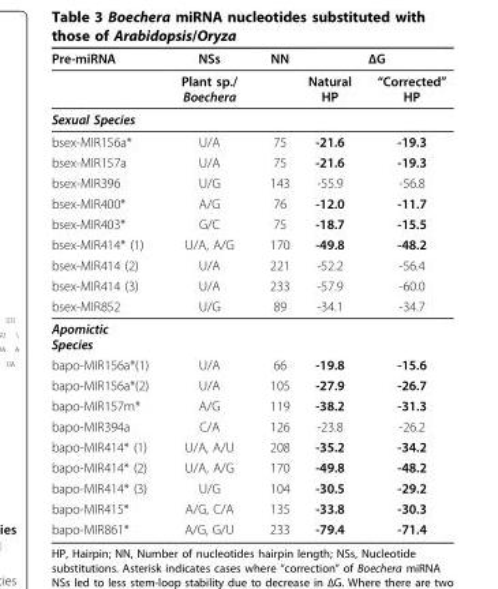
<table><thead><tr><td rowspan="2">Pre-miRNA</td><td rowspan="2">NSs Plant sp./ Boechera</td><td rowspan="2">NN</td><td colspan="2">ΔG</td></tr><tr><td>Natural HP</td><td>“Corrected” HP</td></tr></thead><tbody><tr><td colspan="5">Sexual Species</td></tr><tr><td>bsex-MIR156a*</td><td>U/A</td><td>75</td><td>-21.6</td><td>-19.3</td></tr><tr><td>bsex-MIR157a</td><td>U/A</td><td>75</td><td>-21.6</td><td>-19.3</td></tr><tr><td>bsex-MIR396</td><td>U/G</td><td>143</td><td>-55.9</td><td>-56.8</td></tr><tr><td>bsex-MIR400*</td><td>A/G</td><td>76</td><td>-12.0</td><td>-11.7</td></tr><tr><td>bsex-MIR403*</td><td>G/C</td><td>75</td><td>-18.7</td><td>-15.5</td></tr><tr><td>bsex-MIR414* (1)</td><td>U/A, A/G</td><td>170</td><td>-49.8</td><td>-48.2</td></tr><tr><td>bsex-MIR414 (2)</td><td>U/A</td><td>221</td><td>-52.2</td><td>-56.4</td></tr><tr><td>bsex-MIR414 (3)</td><td>U/A</td><td>233</td><td>-57.9</td><td>-60.0</td></tr><tr><td>bsex-MIR852</td><td>U/G</td><td>89</td><td>-34.1</td><td>-34.7</td></tr><tr><td colspan="5">Apomictic Species</td></tr><tr><td>bapo-MIR156a*(1)</td><td>U/A</td><td>66</td><td>-19.8</td><td>-15.6</td></tr><tr><td>bapo-MIR156a*(2)</td><td>U/A</td><td>105</td><td>-27.9</td><td>-26.7</td></tr><tr><td>bapo-MIR157m*</td><td>A/G</td><td>119</td><td>-38.2</td><td>-31.3</td></tr><tr><td>bapo-MIR394a</td><td>C/A</td><td>126</td><td>-23.8</td><td>-26.2</td></tr><tr><td>bapo-MIR414* (1)</td><td>U/A, A/U</td><td>208</td><td>-35.2</td><td>-34.2</td></tr><tr><td>bapo-MIR414* (2)</td><td>U/A, A/G</td><td>170</td><td>-49.8</td><td>-48.2</td></tr><tr><td>bapo-MIR414* (3)</td><td>U/G</td><td>104</td><td>-30.5</td><td>-29.2</td></tr><tr><td>bapo-MIR415*</td><td>A/G, C/A</td><td>135</td><td>-33.8</td><td>-30.3</td></tr><tr><td>bapo-MIR861*</td><td>A/G, G/U</td><td>233</td><td>-79.4</td><td>-71.4</td></tr></tbody></table>